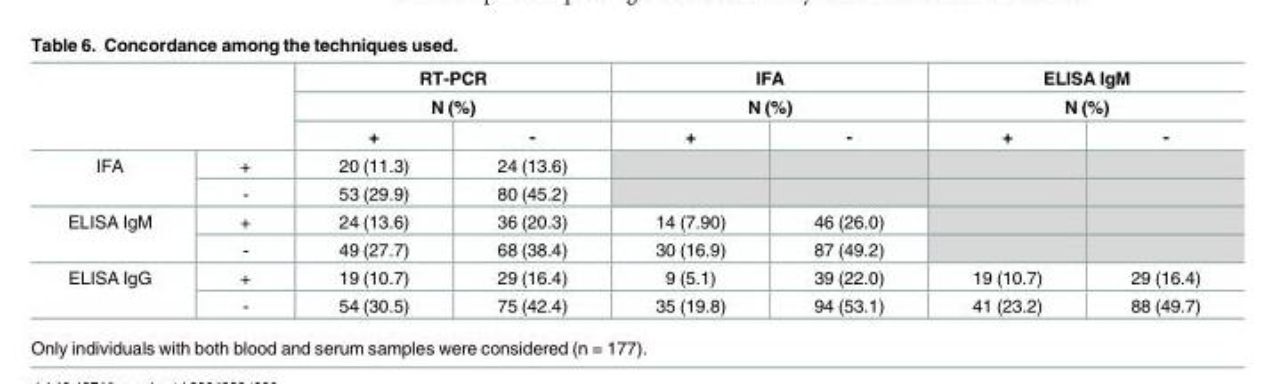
<table><thead><tr><td rowspan="3"></td><td rowspan="3"></td><td rowspan="2" colspan="2">RT-PCR N (%)</td><td rowspan="2" colspan="2">IFA N (%)</td><td rowspan="2" colspan="2">ELISA IgM N (%)</td></tr><tr></tr><tr><td>+</td><td>-</td><td>+</td><td>-</td><td>+</td><td>-</td></tr></thead><tbody><tr><td rowspan="2">IFA</td><td>+</td><td>20 (11.3)</td><td>24 (13.6)</td><td></td><td></td><td></td><td></td></tr><tr><td>-</td><td>53 (29.9)</td><td>80 (45.2)</td><td></td><td></td><td></td><td></td></tr><tr><td rowspan="2">ELISA IgM</td><td>+</td><td>24 (13.6)</td><td>36 (20.3)</td><td>14 (7.90)</td><td>46 (26.0)</td><td></td><td></td></tr><tr><td>-</td><td>49 (27.7)</td><td>68 (38.4)</td><td>30 (16.9)</td><td>87 (49.2)</td><td></td><td></td></tr><tr><td rowspan="2">ELISA IgG</td><td>+</td><td>19 (10.7)</td><td>29 (16.4)</td><td>9 (5.1)</td><td>39 (22.0)</td><td>19 (10.7)</td><td>29 (16.4)</td></tr><tr><td>-</td><td>54 (30.5)</td><td>75 (42.4)</td><td>35 (19.8)</td><td>94 (53.1)</td><td>41 (23.2)</td><td>88 (49.7)</td></tr></tbody></table>